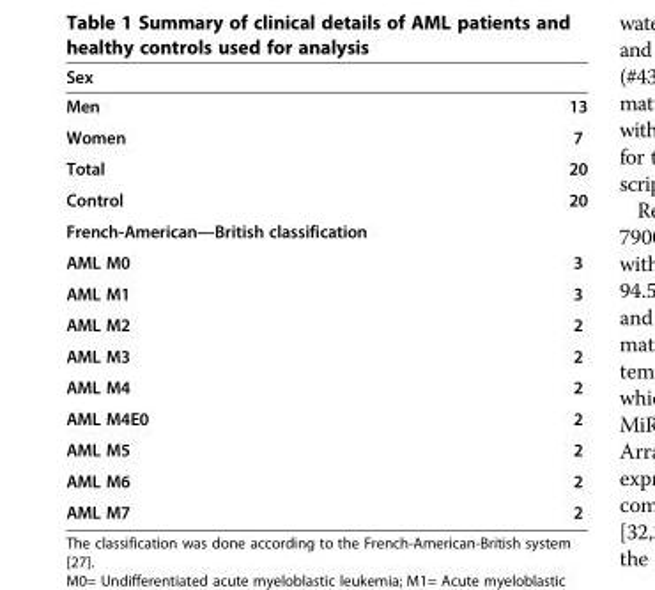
<table><thead><tr><td>Sex</td><td></td></tr></thead><tbody><tr><td>Men</td><td>13</td></tr><tr><td>Women</td><td>7</td></tr><tr><td>Total</td><td>20</td></tr><tr><td>Control</td><td>20</td></tr><tr><td colspan="2">French-American—British classification</td></tr><tr><td>AML M0</td><td>3</td></tr><tr><td>AML M1</td><td>3</td></tr><tr><td>AML M2</td><td>2</td></tr><tr><td>AML M3</td><td>2</td></tr><tr><td>AML M4</td><td>2</td></tr><tr><td>AML M4E0</td><td>2</td></tr><tr><td>AML M5</td><td>2</td></tr><tr><td>AML M6</td><td>2</td></tr><tr><td>AML M7</td><td>2</td></tr></tbody></table>